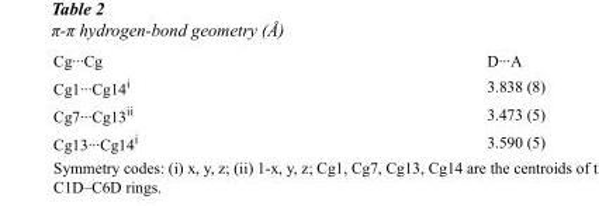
<table><tbody><tr><td>Cg···Cg</td><td>D···A</td></tr><tr><td>Cg1···Cg14<sup>i</sup></td><td>3.838 (8)</td></tr><tr><td>Cg7···Cg13<sup>ii</sup></td><td>3.473 (5)</td></tr><tr><td>Cg13···Cg14<sup>i</sup></td><td>3.590 (5)</td></tr></tbody></table>